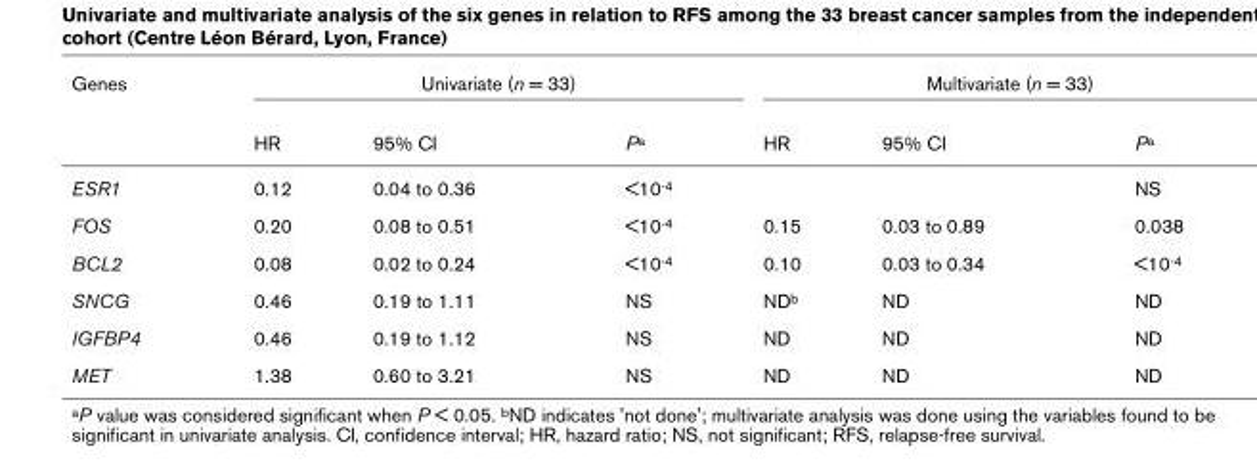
<table><thead><tr><td rowspan="2">Genes</td><td colspan="3">Univariate (n = 33)</td><td colspan="3">Multivariate (n = 33)</td></tr><tr><td>HR</td><td>95% CI</td><td>P<sup>a</sup></td><td>HR</td><td>95% CI</td><td>P<sup>a</sup></td></tr></thead><tbody><tr><td>ESR1</td><td>0.12</td><td>0.04 to 0.36</td><td>&lt;10<sup>-4</sup></td><td></td><td></td><td>NS</td></tr><tr><td>FOS</td><td>0.20</td><td>0.08 to 0.51</td><td>&lt;10<sup>-4</sup></td><td>0.15</td><td>0.03 to 0.89</td><td>0.038</td></tr><tr><td>BCL2</td><td>0.08</td><td>0.02 to 0.24</td><td>&lt;10<sup>-4</sup></td><td>0.10</td><td>0.03 to 0.34</td><td>&lt;10<sup>-4</sup></td></tr><tr><td>SNCG</td><td>0.46</td><td>0.19 to 1.11</td><td>NS</td><td>ND<sup>b</sup></td><td>ND</td><td>ND</td></tr><tr><td>IGFBP4</td><td>0.46</td><td>0.19 to 1.12</td><td>NS</td><td>ND</td><td>ND</td><td>ND</td></tr><tr><td>MET</td><td>1.38</td><td>0.60 to 3.21</td><td>NS</td><td>ND</td><td>ND</td><td>ND</td></tr></tbody></table>